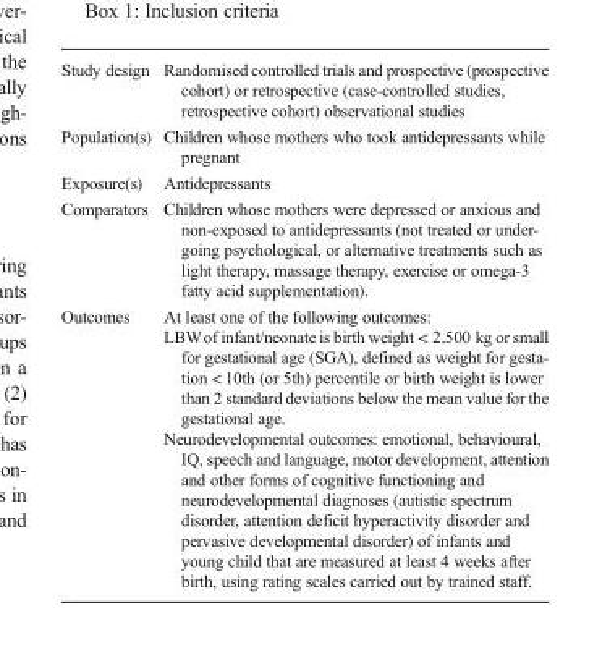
<table><tbody><tr><td>Study design</td><td>Randomised controlled trials and prospective (prospective cohort) or retrospective (case-controlled studies, retrospective cohort) observational studies</td></tr><tr><td>Population(s)</td><td>Children whose mothers who took antidepressants while pregnant</td></tr><tr><td>Exposure(s)</td><td>Antidepressants</td></tr><tr><td>Comparators</td><td>Children whose mothers were depressed or anxious and non-exposed to antidepressants (not treated or under- going psychological, or alternative treatments such as light therapy, massage therapy, exercise or omega-3 fatty acid supplementation).</td></tr><tr><td>Outcomes</td><td>At least one of the following outcomes: LBWof infant/neonate is birth weight &lt; 2.500 kg or small for gestational age (SGA), defined as weight for gesta- tion &lt; 10th (or 5th) percentile or birth weight is lower than 2 standard deviations below the mean value for the gestational age. Neurodevelopmental outcomes: emotional, behavioural, IQ, speech and language, motor development, attention and other forms of cognitive functioning and neurodevelopmental diagnoses (autistic spectrum disorder, attention deficit hyperactivity disorder and pervasive developmental disorder) of infants and young child that are measured at least 4 weeks after birth, using rating scales carried out by trained staff.</td></tr></tbody></table>